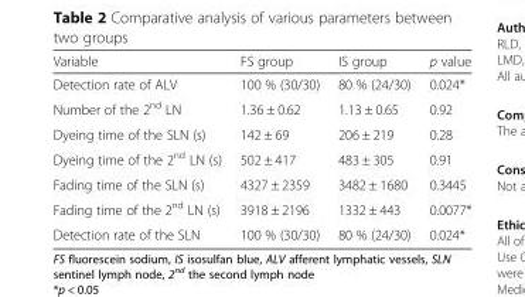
<table><thead><tr><td>Variable</td><td>FS group</td><td>IS group</td><td>p value</td></tr></thead><tbody><tr><td>Detection rate of ALV</td><td>100 % (30/30)</td><td>80 % (24/30)</td><td>0.024*</td></tr><tr><td>Number of the 2<sup>nd</sup> LN</td><td>1.36 ± 0.62</td><td>1.13 ± 0.65</td><td>0.92</td></tr><tr><td>Dyeing time of the SLN (s)</td><td>142 ± 69</td><td>206 ± 219</td><td>0.28</td></tr><tr><td>Dyeing time of the 2<sup>nd</sup> LN (s)</td><td>502 ± 417</td><td>483 ± 305</td><td>0.91</td></tr><tr><td>Fading time of the SLN (s)</td><td>4327 ± 2359</td><td>3482 ± 1680</td><td>0.3445</td></tr><tr><td>Fading time of the 2<sup>nd</sup> LN (s)</td><td>3918 ± 2196</td><td>1332 ± 443</td><td>0.0077*</td></tr><tr><td>Detection rate of the SLN</td><td>100 % (30/30)</td><td>80 % (24/30)</td><td>0.024*</td></tr></tbody></table>